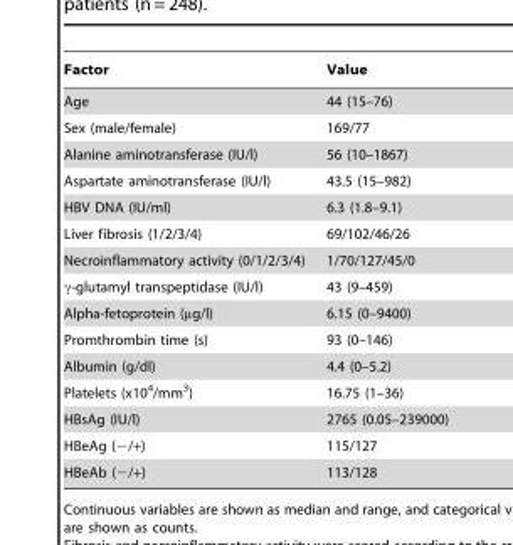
<table><thead><tr><td>Factor</td><td>Value</td></tr></thead><tbody><tr><td>Age</td><td>44 (15–76)</td></tr><tr><td>Sex (male/female)</td><td>169/77</td></tr><tr><td>Alanine aminotransferase (IU/l)</td><td>56 (10–1867)</td></tr><tr><td>Aspartate aminotransferase (IU/l)</td><td>43.5 (15–982)</td></tr><tr><td>HBV DNA (IU/ml)</td><td>6.3 (1.8–9.1)</td></tr><tr><td>Liver fibrosis (1/2/3/4)</td><td>69/102/46/26</td></tr><tr><td>Necroinflammatory activity (0/1/2/3/4)</td><td>1/70/127/45/0</td></tr><tr><td>γ-glutamyl transpeptidase (IU/l)</td><td>43 (9–459)</td></tr><tr><td>Alpha-fetoprotein (µg/l)</td><td>6.15 (0–9400)</td></tr><tr><td>Promthrombin time (s)</td><td>93 (0–146)</td></tr><tr><td>Albumin (g/dl)</td><td>4.4 (0–5.2)</td></tr><tr><td>Platelets (x10<sup>4</sup>/mm<sup>3</sup>)</td><td>16.75 (1–36)</td></tr><tr><td>HBsAg (IU/l)</td><td>2765 (0.05–239000)</td></tr><tr><td>HBeAg (−/+)</td><td>115/127</td></tr><tr><td>HBeAb (−/+)</td><td>113/128</td></tr></tbody></table>